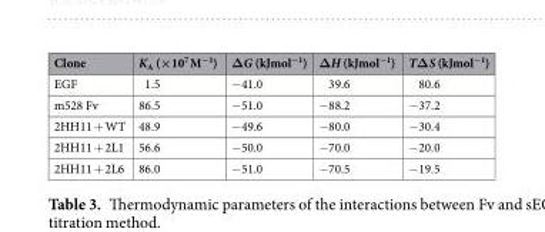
<table><thead><tr><td>Clone</td><td>K<sub>A</sub> (×10<sup>7</sup> M<sup>−1</sup>)</td><td>ΔG (kJmol<sup>−1</sup>)</td><td>ΔH (kJmol<sup>−1</sup>)</td><td>TΔS (kJmol<sup>−1</sup>)</td></tr></thead><tbody><tr><td>EGF</td><td>1.5</td><td>−41.0</td><td>39.6</td><td>80.6</td></tr><tr><td>m528 Fv</td><td>86.5</td><td>−51.0</td><td>−88.2</td><td>−37.2</td></tr><tr><td>2HH11 + WT</td><td>48.9</td><td>−49.6</td><td>−80.0</td><td>−30.4</td></tr><tr><td>2HH11 + 2L1</td><td>56.6</td><td>−50.0</td><td>−70.0</td><td>−20.0</td></tr><tr><td>2HH11 + 2L6</td><td>86.0</td><td>−51.0</td><td>−70.5</td><td>−19.5</td></tr></tbody></table>